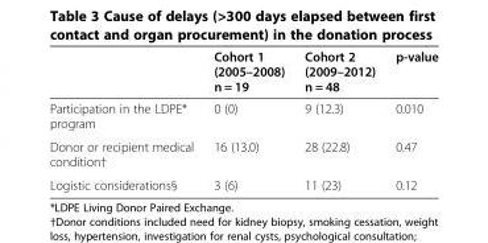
<table><thead><tr><td></td><td>Cohort 1 (2005–2008) n = 19</td><td>Cohort 2 (2009–2012) n = 48</td><td>p-value</td></tr></thead><tbody><tr><td>Participation in the LDPE* program</td><td>0 (0)</td><td>9 (12.3)</td><td>0.010</td></tr><tr><td>Donor or recipient medical condition†</td><td>16 (13.0)</td><td>28 (22.8)</td><td>0.47</td></tr><tr><td>Logistic considerations§</td><td>3 (6)</td><td>11 (23)</td><td>0.12</td></tr></tbody></table>